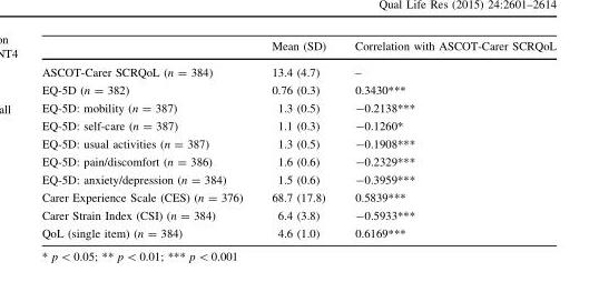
<table><thead><tr><td></td><td>Mean (SD)</td><td>Correlation with ASCOT-Carer SCRQoL</td></tr></thead><tbody><tr><td>ASCOT-Carer SCRQoL (n = 384)</td><td>13.4 (4.7)</td><td>–</td></tr><tr><td>EQ-5D (n = 382)</td><td>0.76 (0.3)</td><td>0.3430***</td></tr><tr><td>EQ-5D: mobility (n = 387)</td><td>1.3 (0.5)</td><td>-0.2138***</td></tr><tr><td>EQ-5D: self-care (n = 387)</td><td>1.1 (0.3)</td><td>-0.1260*</td></tr><tr><td>EQ-5D: usual activities (n = 387)</td><td>1.3 (0.5)</td><td>-0.1908***</td></tr><tr><td>EQ-5D: pain/discomfort (n = 386)</td><td>1.6 (0.6)</td><td>-0.2329***</td></tr><tr><td>EQ-5D: anxiety/depression (n = 384)</td><td>1.5 (0.6)</td><td>-0.3959***</td></tr><tr><td>Carer Experience Scale (CES) (n = 376)</td><td>68.7 (17.8)</td><td>0.5839***</td></tr><tr><td>Carer Strain Index (CSI) (n = 384)</td><td>6.4 (3.8)</td><td>-0.5933***</td></tr><tr><td>QoL (single item) (n = 384)</td><td>4.6 (1.0)</td><td>0.6169***</td></tr></tbody></table>